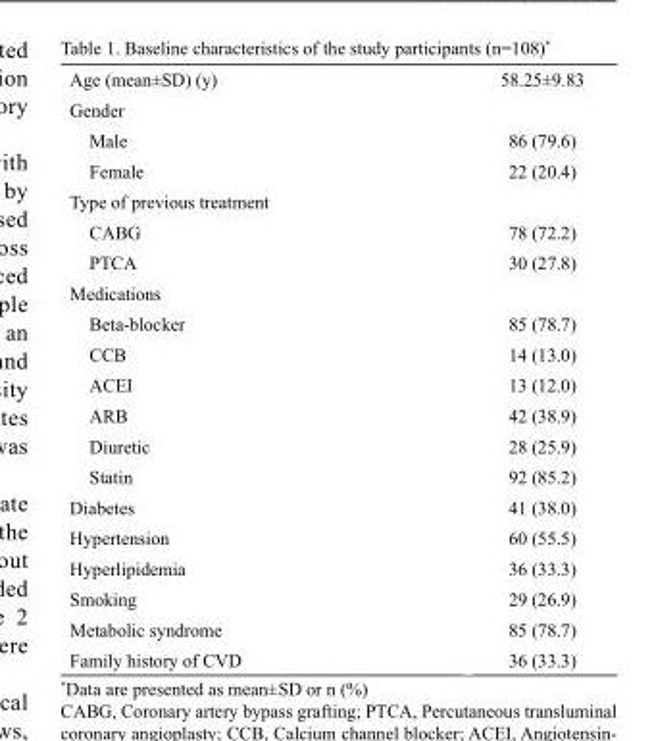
<table><thead><tr><td>Age (mean±SD) (y)</td><td>58.25±9.83</td></tr></thead><tbody><tr><td colspan="2">Gender</td></tr><tr><td>Male</td><td>86 (79.6)</td></tr><tr><td>Female</td><td>22 (20.4)</td></tr><tr><td colspan="2">Type of previous treatment</td></tr><tr><td>CABG</td><td>78 (72.2)</td></tr><tr><td>PTCA</td><td>30 (27.8)</td></tr><tr><td colspan="2">Medications</td></tr><tr><td>Beta-blocker</td><td>85 (78.7)</td></tr><tr><td>CCB</td><td>14 (13.0)</td></tr><tr><td>ACEI</td><td>13 (12.0)</td></tr><tr><td>ARB</td><td>42 (38.9)</td></tr><tr><td>Diuretic</td><td>28 (25.9)</td></tr><tr><td>Statin</td><td>92 (85.2)</td></tr><tr><td>Diabetes</td><td>41 (38.0)</td></tr><tr><td>Hypertension</td><td>60 (55.5)</td></tr><tr><td>Hyperlipidemia</td><td>36 (33.3)</td></tr><tr><td>Smoking</td><td>29 (26.9)</td></tr><tr><td>Metabolic syndrome</td><td>85 (78.7)</td></tr><tr><td>Family history of CVD</td><td>36 (33.3)</td></tr></tbody></table>